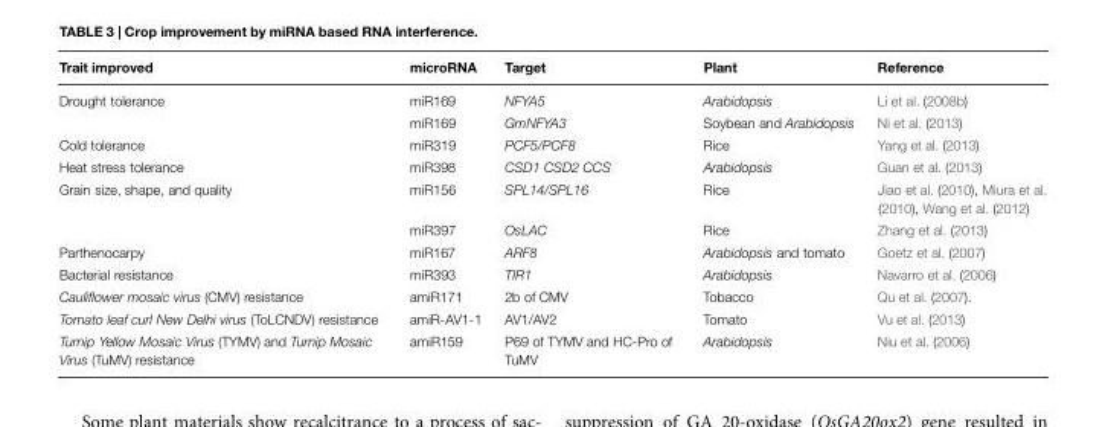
<table><thead><tr><td>Trait improved</td><td>microRNA</td><td>Target</td><td>Plant</td><td>Reference</td></tr></thead><tbody><tr><td rowspan="2">Drought tolerance</td><td>miR169</td><td>NFYA5</td><td>Arabidopsis</td><td>Li et al. (2008b)</td></tr><tr><td>miR169</td><td>GmNFYA3</td><td>Soybean and Arabidopsis</td><td>Ni et al. (2013)</td></tr><tr><td>Cold tolerance</td><td>miR319</td><td>PCF5/PCF8</td><td>Rice</td><td>Yang et al. (2013)</td></tr><tr><td>Heat stress tolerance</td><td>miR398</td><td>CSD1 CSD2 CCS</td><td>Arabidopsis</td><td>Guan et al. (2013)</td></tr><tr><td rowspan="2">Grain size, shape, and quality</td><td>miR156</td><td>SPL14/SPL16</td><td>Rice</td><td>Jiao et al. (2010), Miura et al. (2010), Wang et al. (2012)</td></tr><tr><td>miR397</td><td>OsLAC</td><td>Rice</td><td>Zhang et al. (2013)</td></tr><tr><td>Parthenocarpy</td><td>miR167</td><td>ARF8</td><td>Arabidopsis and tomato</td><td>Goetz et al. (2007)</td></tr><tr><td>Bacterial resistance</td><td>miR393</td><td>TIR1</td><td>Arabidopsis</td><td>Navarro et al. (2006)</td></tr><tr><td>Cauliflower mosaic virus (CMV) resistance</td><td>amiR171</td><td>2b of CMV</td><td>Tobacco</td><td>Qu et al. (2007).</td></tr><tr><td>Tomato leaf curl New Delhi virus (ToLCNDV) resistance</td><td>amiR-AV1-1</td><td>AV1/AV2</td><td>Tomato</td><td>Vu et al. (2013)</td></tr><tr><td>Turnip Yellow Mosaic Virus (TYMV) and Turnip Mosaic Virus (TuMV) resistance</td><td>amiR159</td><td>P69 of TYMV and HC-Pro of TuMV</td><td>Arabidopsis</td><td>Niu et al. (2006)</td></tr></tbody></table>